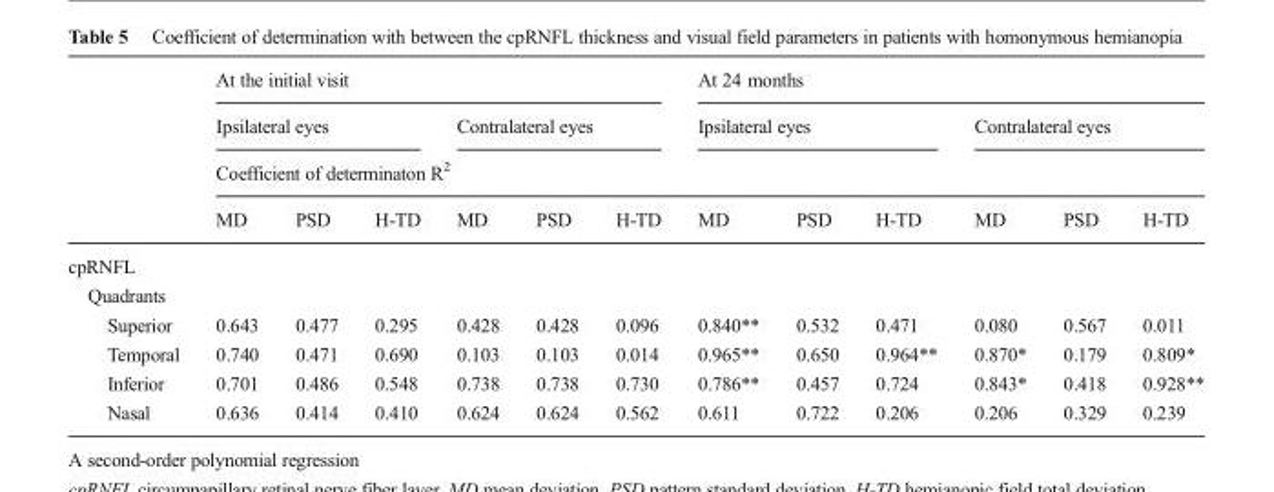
<table><thead><tr><td rowspan="4"></td><td colspan="6">At the initial visit</td><td colspan="6">At 24 months</td></tr><tr><td colspan="3">Ipsilateral eyes</td><td colspan="3">Contralateral eyes</td><td colspan="3">Ipsilateral eyes</td><td colspan="3">Contralateral eyes</td></tr><tr><td colspan="12">Coefficient of determinaton R<sup>2</sup></td></tr><tr><td>MD</td><td>PSD</td><td>H-TD</td><td>MD</td><td>PSD</td><td>H-TD</td><td>MD</td><td>PSD</td><td>H-TD</td><td>MD</td><td>PSD</td><td>H-TD</td></tr></thead><tbody><tr><td colspan="13">cpRNFL</td></tr><tr><td colspan="13">Quadrants</td></tr><tr><td>Superior</td><td>0.643</td><td>0.477</td><td>0.295</td><td>0.428</td><td>0.428</td><td>0.096</td><td>0.840**</td><td>0.532</td><td>0.471</td><td>0.080</td><td>0.567</td><td>0.011</td></tr><tr><td>Temporal</td><td>0.740</td><td>0.471</td><td>0.690</td><td>0.103</td><td>0.103</td><td>0.014</td><td>0.965**</td><td>0.650</td><td>0.964**</td><td>0.870*</td><td>0.179</td><td>0.809*</td></tr><tr><td>Inferior</td><td>0.701</td><td>0.486</td><td>0.548</td><td>0.738</td><td>0.738</td><td>0.730</td><td>0.786**</td><td>0.457</td><td>0.724</td><td>0.843*</td><td>0.418</td><td>0.928**</td></tr><tr><td>Nasal</td><td>0.636</td><td>0.414</td><td>0.410</td><td>0.624</td><td>0.624</td><td>0.562</td><td>0.611</td><td>0.722</td><td>0.206</td><td>0.206</td><td>0.329</td><td>0.239</td></tr></tbody></table>